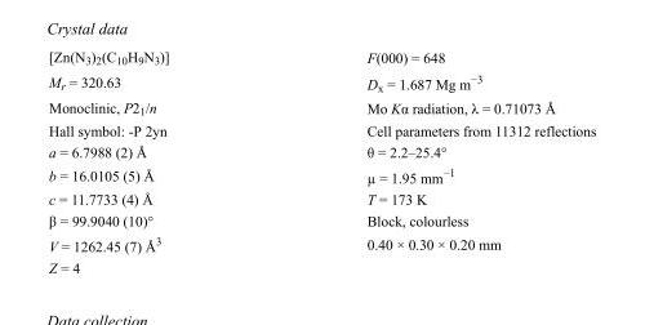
<table><tbody><tr><td>[Zn(N<sub>3</sub>)<sub>2</sub>(C<sub>10</sub>H<sub>9</sub>N<sub>3</sub>)]</td><td>F(000) = 648</td></tr><tr><td>M<sub>r</sub> = 320.63</td><td>D<sub>x</sub> = 1.687 Mg m<sup>−3</sup></td></tr><tr><td>Monoclinic, P2<sub>1</sub>/n</td><td>Mo Kα radiation, λ = 0.71073 Å</td></tr><tr><td>Hall symbol: -P 2yn</td><td>Cell parameters from 11312 reflections</td></tr><tr><td>a = 6.7988 (2) Å</td><td>θ = 2.2–25.4°</td></tr><tr><td>b = 16.0105 (5) Å</td><td>µ = 1.95 mm<sup>−1</sup></td></tr><tr><td>c = 11.7733 (4) Å</td><td>T = 173 K</td></tr><tr><td>β = 99.9040 (10)°</td><td>Block, colourless</td></tr><tr><td>V = 1262.45 (7) Å<sup>3</sup></td><td>0.40 × 0.30 × 0.20 mm</td></tr><tr><td>Z = 4</td><td></td></tr></tbody></table>